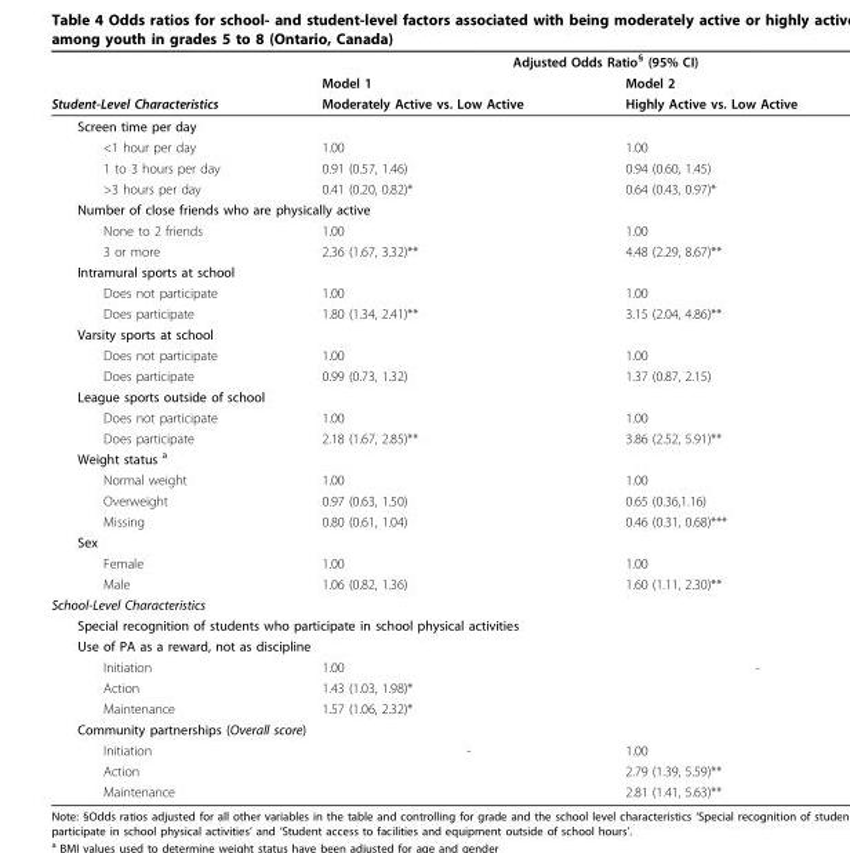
<table><thead><tr><td rowspan="3">Student-Level Characteristics</td><td colspan="2">Adjusted Odds Ratio<sup>§</sup> (95% CI)</td></tr><tr><td rowspan="2">Model 1 Moderately Active vs. Low Active</td><td rowspan="2">Model 2 Highly Active vs. Low Active</td></tr><tr></tr></thead><tbody><tr><td colspan="3">Screen time per day</td></tr><tr><td>&lt;1 hour per day</td><td>1.00</td><td>1.00</td></tr><tr><td>1 to 3 hours per day</td><td>0.91 (0.57, 1.46)</td><td>0.94 (0.60, 1.45)</td></tr><tr><td>&gt;3 hours per day</td><td>0.41 (0.20, 0.82)*</td><td>0.64 (0.43, 0.97)*</td></tr><tr><td colspan="3">Number of close friends who are physically active</td></tr><tr><td>None to 2 friends</td><td>1.00</td><td>1.00</td></tr><tr><td>3 or more</td><td>2.36 (1.67, 3.32)**</td><td>4.48 (2.29, 8.67)**</td></tr><tr><td colspan="3">Intramural sports at school</td></tr><tr><td>Does not participate</td><td>1.00</td><td>1.00</td></tr><tr><td>Does participate</td><td>1.80 (1.34, 2.41)**</td><td>3.15 (2.04, 4.86)**</td></tr><tr><td colspan="3">Varsity sports at school</td></tr><tr><td>Does not participate</td><td>1.00</td><td>1.00</td></tr><tr><td>Does participate</td><td>0.99 (0.73, 1.32)</td><td>1.37 (0.87, 2.15)</td></tr><tr><td colspan="3">League sports outside of school</td></tr><tr><td>Does not participate</td><td>1.00</td><td>1.00</td></tr><tr><td>Does participate</td><td>2.18 (1.67, 2.85)**</td><td>3.86 (2.52, 5.91)**</td></tr><tr><td colspan="3">Weight status <sup>a</sup></td></tr><tr><td>Normal weight</td><td>1.00</td><td>1.00</td></tr><tr><td>Overweight</td><td>0.97 (0.63, 1.50)</td><td>0.65 (0.36,1.16)</td></tr><tr><td>Missing</td><td>0.80 (0.61, 1.04)</td><td>0.46 (0.31, 0.68)***</td></tr><tr><td colspan="3">Sex</td></tr><tr><td>Female</td><td>1.00</td><td>1.00</td></tr><tr><td>Male</td><td>1.06 (0.82, 1.36)</td><td>1.60 (1.11, 2.30)**</td></tr><tr><td colspan="3">School-Level Characteristics</td></tr><tr><td colspan="3">Special recognition of students who participate in school physical activities</td></tr><tr><td colspan="3">Use of PA as a reward, not as discipline</td></tr><tr><td>Initiation</td><td>1.00</td><td>-</td></tr><tr><td>Action</td><td>1.43 (1.03, 1.98)*</td><td></td></tr><tr><td>Maintenance</td><td>1.57 (1.06, 2.32)*</td><td></td></tr><tr><td colspan="3">Community partnerships (Overall score)</td></tr><tr><td>Initiation</td><td>-</td><td>1.00</td></tr><tr><td>Action</td><td></td><td>2.79 (1.39, 5.59)**</td></tr><tr><td>Maintenance</td><td></td><td>2.81 (1.41, 5.63)**</td></tr></tbody></table>